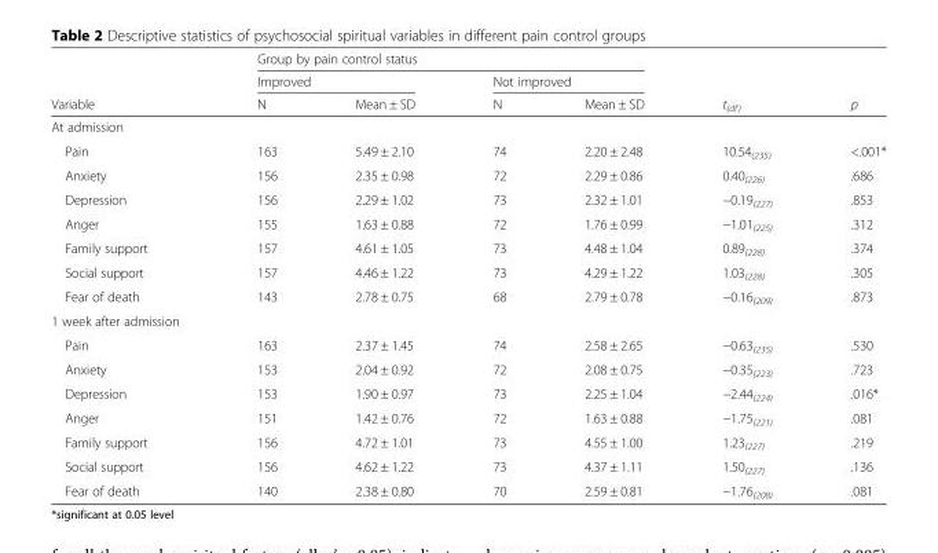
<table><thead><tr><td rowspan="3">Variable</td><td colspan="4">Group by pain control status</td><td rowspan="3">t<sub>(df)</sub></td><td rowspan="3">p</td></tr><tr><td colspan="2">Improved</td><td colspan="2">Not improved</td></tr><tr><td>N</td><td>Mean ± SD</td><td>N</td><td>Mean ± SD</td></tr></thead><tbody><tr><td colspan="7">At admission</td></tr><tr><td>Pain</td><td>163</td><td>5.49 ± 2.10</td><td>74</td><td>2.20 ± 2.48</td><td>10.54<sub>(235)</sub></td><td>&lt;.001*</td></tr><tr><td>Anxiety</td><td>156</td><td>2.35 ± 0.98</td><td>72</td><td>2.29 ± 0.86</td><td>0.40<sub>(226)</sub></td><td>.686</td></tr><tr><td>Depression</td><td>156</td><td>2.29 ± 1.02</td><td>73</td><td>2.32 ± 1.01</td><td>−0.19<sub>(227)</sub></td><td>.853</td></tr><tr><td>Anger</td><td>155</td><td>1.63 ± 0.88</td><td>72</td><td>1.76 ± 0.99</td><td>−1.01<sub>(225)</sub></td><td>.312</td></tr><tr><td>Family support</td><td>157</td><td>4.61 ± 1.05</td><td>73</td><td>4.48 ± 1.04</td><td>0.89<sub>(228)</sub></td><td>.374</td></tr><tr><td>Social support</td><td>157</td><td>4.46 ± 1.22</td><td>73</td><td>4.29 ± 1.22</td><td>1.03<sub>(228)</sub></td><td>.305</td></tr><tr><td>Fear of death</td><td>143</td><td>2.78 ± 0.75</td><td>68</td><td>2.79 ± 0.78</td><td>−0.16<sub>(209)</sub></td><td>.873</td></tr><tr><td colspan="7">1 week after admission</td></tr><tr><td>Pain</td><td>163</td><td>2.37 ± 1.45</td><td>74</td><td>2.58 ± 2.65</td><td>−0.63<sub>(235)</sub></td><td>.530</td></tr><tr><td>Anxiety</td><td>153</td><td>2.04 ± 0.92</td><td>72</td><td>2.08 ± 0.75</td><td>−0.35<sub>(223)</sub></td><td>.723</td></tr><tr><td>Depression</td><td>153</td><td>1.90 ± 0.97</td><td>73</td><td>2.25 ± 1.04</td><td>−2.44<sub>(224)</sub></td><td>.016*</td></tr><tr><td>Anger</td><td>151</td><td>1.42 ± 0.76</td><td>72</td><td>1.63 ± 0.88</td><td>−1.75<sub>(221)</sub></td><td>.081</td></tr><tr><td>Family support</td><td>156</td><td>4.72 ± 1.01</td><td>73</td><td>4.55 ± 1.00</td><td>1.23<sub>(227)</sub></td><td>.219</td></tr><tr><td>Social support</td><td>156</td><td>4.62 ± 1.22</td><td>73</td><td>4.37 ± 1.11</td><td>1.50<sub>(227)</sub></td><td>.136</td></tr><tr><td>Fear of death</td><td>140</td><td>2.38 ± 0.80</td><td>70</td><td>2.59 ± 0.81</td><td>−1.76<sub>(208)</sub></td><td>.081</td></tr></tbody></table>